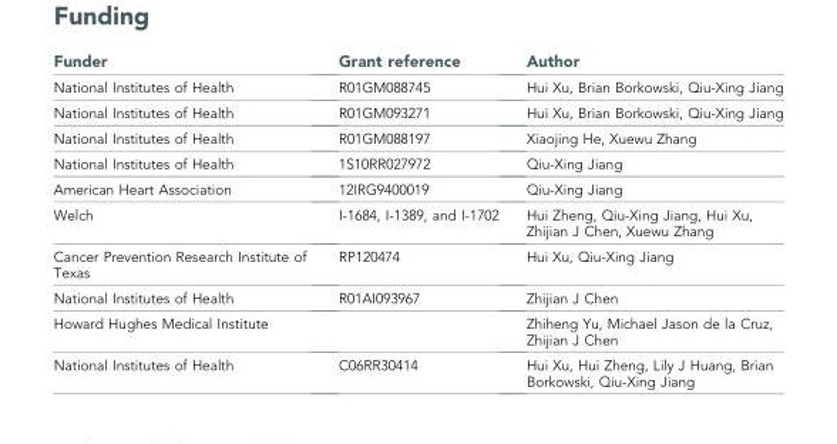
<table><thead><tr><td>Funder</td><td>Grant reference</td><td>Author</td></tr></thead><tbody><tr><td>National Institutes of Health</td><td>R01GM088745</td><td>Hui Xu, Brian Borkowski, Qiu-Xing Jiang</td></tr><tr><td>National Institutes of Health</td><td>R01GM093271</td><td>Hui Xu, Brian Borkowski, Qiu-Xing Jiang</td></tr><tr><td>National Institutes of Health</td><td>R01GM088197</td><td>Xiaojing He, Xuewu Zhang</td></tr><tr><td>National Institutes of Health</td><td>1S10RR027972</td><td>Qiu-Xing Jiang</td></tr><tr><td>American Heart Association</td><td>12IRG9400019</td><td>Qiu-Xing Jiang</td></tr><tr><td>Welch</td><td>I-1684, I-1389, and I-1702</td><td>Hui Zheng, Qiu-Xing Jiang, Hui Xu, Zhijian J Chen, Xuewu Zhang</td></tr><tr><td>Cancer Prevention Research Institute of Texas</td><td>RP120474</td><td>Hui Xu, Qiu-Xing Jiang</td></tr><tr><td>National Institutes of Health</td><td>R01AI093967</td><td>Zhijian J Chen</td></tr><tr><td>Howard Hughes Medical Institute</td><td></td><td>Zhiheng Yu, Michael Jason de la Cruz, Zhijian J Chen</td></tr><tr><td>National Institutes of Health</td><td>C06RR30414</td><td>Hui Xu, Hui Zheng, Lily J Huang, Brian Borkowski, Qiu-Xing Jiang</td></tr></tbody></table>